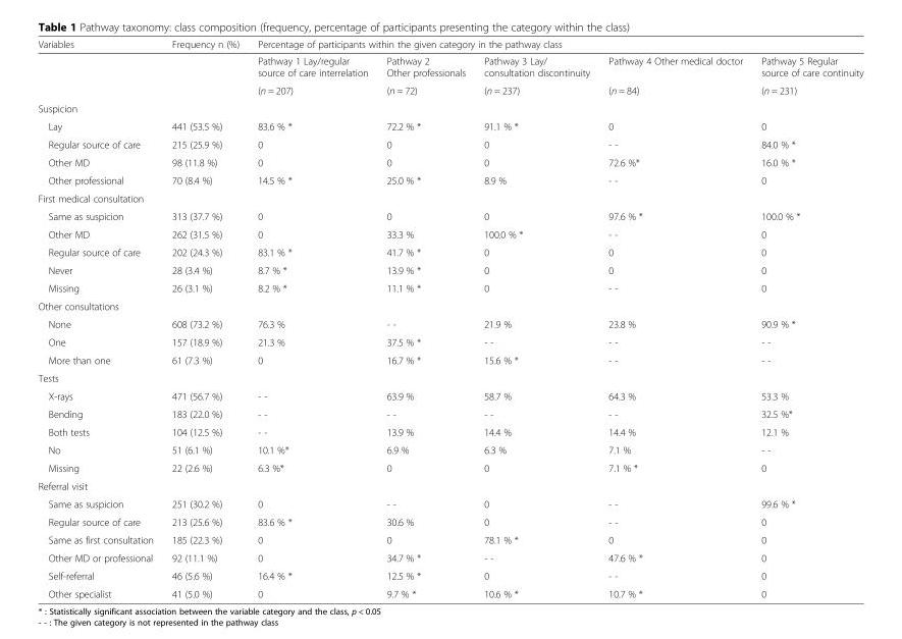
<table><thead><tr><td rowspan="2">Variables</td><td rowspan="2">Frequency n (%)</td><td colspan="5">Percentage of participants within the given category in the pathway class</td></tr><tr><td>Pathway 1 Lay/regular source of care interrelation</td><td>Pathway 2 Other professionals</td><td>Pathway 3 Lay/ consultation discontinuity</td><td>Pathway 4 Other medical doctor</td><td>Pathway 5 Regular source of care continuity</td></tr></thead><tbody><tr><td></td><td></td><td>(n = 207)</td><td>(n = 72)</td><td>(n = 237)</td><td>(n = 84)</td><td>(n = 231)</td></tr><tr><td colspan="7">Suspicion</td></tr><tr><td>Lay</td><td>441 (53.5 %)</td><td>83.6 % *</td><td>72.2 % *</td><td>91.1 % *</td><td>0</td><td>0</td></tr><tr><td>Regular source of care</td><td>215 (25.9 %)</td><td>0</td><td>0</td><td>0</td><td>- -</td><td>84.0 % *</td></tr><tr><td>Other MD</td><td>98 (11.8 %)</td><td>0</td><td>0</td><td>0</td><td>72.6 %*</td><td>16.0 % *</td></tr><tr><td>Other professional</td><td>70 (8.4 %)</td><td>14.5 % *</td><td>25.0 % *</td><td>8.9 %</td><td>- -</td><td>0</td></tr><tr><td colspan="7">First medical consultation</td></tr><tr><td>Same as suspicion</td><td>313 (37.7 %)</td><td>0</td><td>0</td><td>0</td><td>97.6 % *</td><td>100.0 % *</td></tr><tr><td>Other MD</td><td>262 (31.5 %)</td><td>0</td><td>33.3 %</td><td>100.0 % *</td><td>- -</td><td>0</td></tr><tr><td>Regular source of care</td><td>202 (24.3 %)</td><td>83.1 % *</td><td>41.7 % *</td><td>0</td><td>0</td><td>0</td></tr><tr><td>Never</td><td>28 (3.4 %)</td><td>8.7 % *</td><td>13.9 % *</td><td>0</td><td>0</td><td>0</td></tr><tr><td>Missing</td><td>26 (3.1 %)</td><td>8.2 % *</td><td>11.1 % *</td><td>0</td><td>- -</td><td>0</td></tr><tr><td colspan="7">Other consultations</td></tr><tr><td>None</td><td>608 (73.2 %)</td><td>76.3 %</td><td>- -</td><td>21.9 %</td><td>23.8 %</td><td>90.9 % *</td></tr><tr><td>One</td><td>157 (18.9 %)</td><td>21.3 %</td><td>37.5 % *</td><td>- -</td><td>- -</td><td>- -</td></tr><tr><td>More than one</td><td>61 (7.3 %)</td><td>0</td><td>16.7 % *</td><td>15.6 % *</td><td>- -</td><td>- -</td></tr><tr><td colspan="7">Tests</td></tr><tr><td>X-rays</td><td>471 (56.7 %)</td><td>- -</td><td>63.9 %</td><td>58.7 %</td><td>64.3 %</td><td>53.3 %</td></tr><tr><td>Bending</td><td>183 (22.0 %)</td><td>- -</td><td>- -</td><td>- -</td><td>- -</td><td>32.5 %*</td></tr><tr><td>Both tests</td><td>104 (12.5 %)</td><td>- -</td><td>13.9 %</td><td>14.4 %</td><td>14.4 %</td><td>12.1 %</td></tr><tr><td>No</td><td>51 (6.1 %)</td><td>10.1 %*</td><td>6.9 %</td><td>6.3 %</td><td>7.1 %</td><td>- -</td></tr><tr><td>Missing</td><td>22 (2.6 %)</td><td>6.3 %*</td><td>0</td><td>0</td><td>7.1 % *</td><td>0</td></tr><tr><td colspan="7">Referral visit</td></tr><tr><td>Same as suspicion</td><td>251 (30.2 %)</td><td>0</td><td>- -</td><td>0</td><td>- -</td><td>99.6 % *</td></tr><tr><td>Regular source of care</td><td>213 (25.6 %)</td><td>83.6 % *</td><td>30.6 %</td><td>0</td><td>- -</td><td>0</td></tr><tr><td>Same as first consultation</td><td>185 (22.3 %)</td><td>0</td><td>0</td><td>78.1 % *</td><td>0</td><td>0</td></tr><tr><td>Other MD or professional</td><td>92 (11.1 %)</td><td>0</td><td>34.7 % *</td><td>- -</td><td>47.6 % *</td><td>0</td></tr><tr><td>Self-referral</td><td>46 (5.6 %)</td><td>16.4 % *</td><td>12.5 % *</td><td>0</td><td>- -</td><td>0</td></tr><tr><td>Other specialist</td><td>41 (5.0 %)</td><td>0</td><td>9.7 % *</td><td>10.6 % *</td><td>10.7 % *</td><td>0</td></tr></tbody></table>